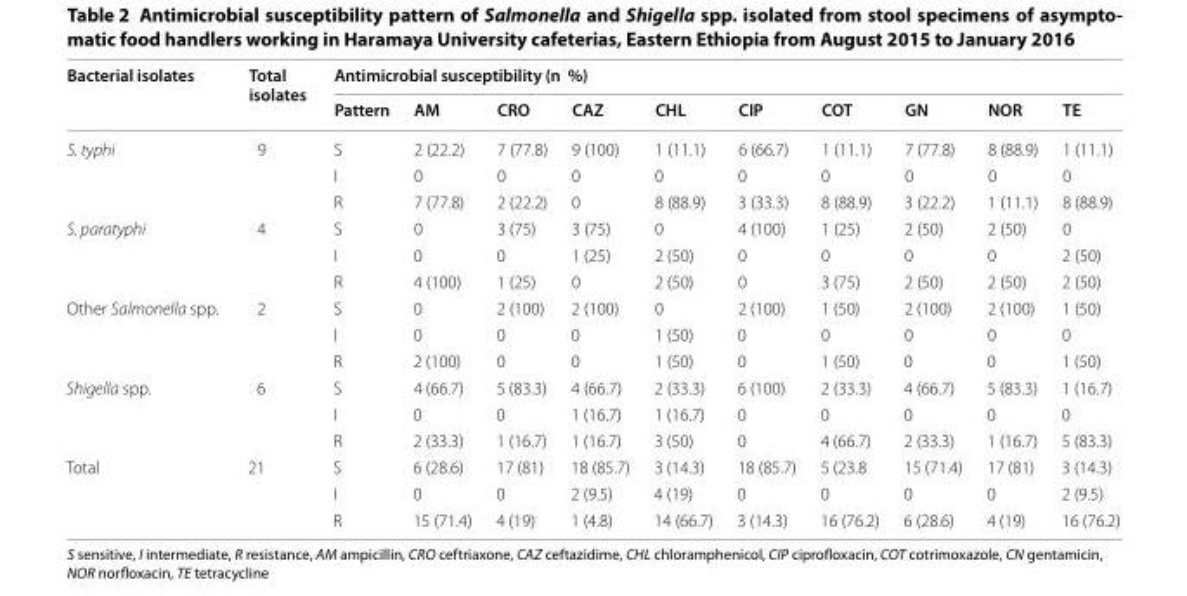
<table><thead><tr><td rowspan="2">Bacterial isolates</td><td rowspan="2">Total isolates</td><td colspan="10">Antimicrobial susceptibility (n %)</td></tr><tr><td>Pattern</td><td>AM</td><td>CRO</td><td>CAZ</td><td>CHL</td><td>CIP</td><td>COT</td><td>GN</td><td>NOR</td><td>TE</td></tr></thead><tbody><tr><td rowspan="3">S. typhi</td><td rowspan="3">9</td><td>S</td><td>2 (22.2)</td><td>7 (77.8)</td><td>9 (100)</td><td>1 (11.1)</td><td>6 (66.7)</td><td>1 (11.1)</td><td>7 (77.8)</td><td>8 (88.9)</td><td>1 (11.1)</td></tr><tr><td>I</td><td>0</td><td>0</td><td>0</td><td>0</td><td>0</td><td>0</td><td>0</td><td>0</td><td>0</td></tr><tr><td>R</td><td>7 (77.8)</td><td>2 (22.2)</td><td>0</td><td>8 (88.9)</td><td>3 (33.3)</td><td>8 (88.9)</td><td>3 (22.2)</td><td>1 (11.1)</td><td>8 (88.9)</td></tr><tr><td rowspan="3">S. paratyphi</td><td rowspan="3">4</td><td>S</td><td>0</td><td>3 (75)</td><td>3 (75)</td><td>0</td><td>4 (100)</td><td>1 (25)</td><td>2 (50)</td><td>2 (50)</td><td>0</td></tr><tr><td>I</td><td>0</td><td>0</td><td>1 (25)</td><td>2 (50)</td><td>0</td><td>0</td><td>0</td><td>0</td><td>2 (50)</td></tr><tr><td>R</td><td>4 (100)</td><td>1 (25)</td><td>0</td><td>2 (50)</td><td>0</td><td>3 (75)</td><td>2 (50)</td><td>2 (50)</td><td>2 (50)</td></tr><tr><td rowspan="3">Other Salmonella spp.</td><td rowspan="3">2</td><td>S</td><td>0</td><td>2 (100)</td><td>2 (100)</td><td>0</td><td>2 (100)</td><td>1 (50)</td><td>2 (100)</td><td>2 (100)</td><td>1 (50)</td></tr><tr><td>I</td><td>0</td><td>0</td><td>0</td><td>1 (50)</td><td>0</td><td>0</td><td>0</td><td>0</td><td>0</td></tr><tr><td>R</td><td>2 (100)</td><td>0</td><td>0</td><td>1 (50)</td><td>0</td><td>1 (50)</td><td>0</td><td>0</td><td>1 (50)</td></tr><tr><td rowspan="3">Shigella spp.</td><td rowspan="3">6</td><td>S</td><td>4 (66.7)</td><td>5 (83.3)</td><td>4 (66.7)</td><td>2 (33.3)</td><td>6 (100)</td><td>2 (33.3)</td><td>4 (66.7)</td><td>5 (83.3)</td><td>1 (16.7)</td></tr><tr><td>I</td><td>0</td><td>0</td><td>1 (16.7)</td><td>1 (16.7)</td><td>0</td><td>0</td><td>0</td><td>0</td><td>0</td></tr><tr><td>R</td><td>2 (33.3)</td><td>1 (16.7)</td><td>1 (16.7)</td><td>3 (50)</td><td>0</td><td>4 (66.7)</td><td>2 (33.3)</td><td>1 (16.7)</td><td>5 (83.3)</td></tr><tr><td rowspan="3">Total</td><td rowspan="3">21</td><td>S</td><td>6 (28.6)</td><td>17 (81)</td><td>18 (85.7)</td><td>3 (14.3)</td><td>18 (85.7)</td><td>5 (23.8</td><td>15 (71.4)</td><td>17 (81)</td><td>3 (14.3)</td></tr><tr><td>I</td><td>0</td><td>0</td><td>2 (9.5)</td><td>4 (19)</td><td>0</td><td>0</td><td>0</td><td>0</td><td>2 (9.5)</td></tr><tr><td>R</td><td>15 (71.4)</td><td>4 (19)</td><td>1 (4.8)</td><td>14 (66.7)</td><td>3 (14.3)</td><td>16 (76.2)</td><td>6 (28.6)</td><td>4 (19)</td><td>16 (76.2)</td></tr></tbody></table>